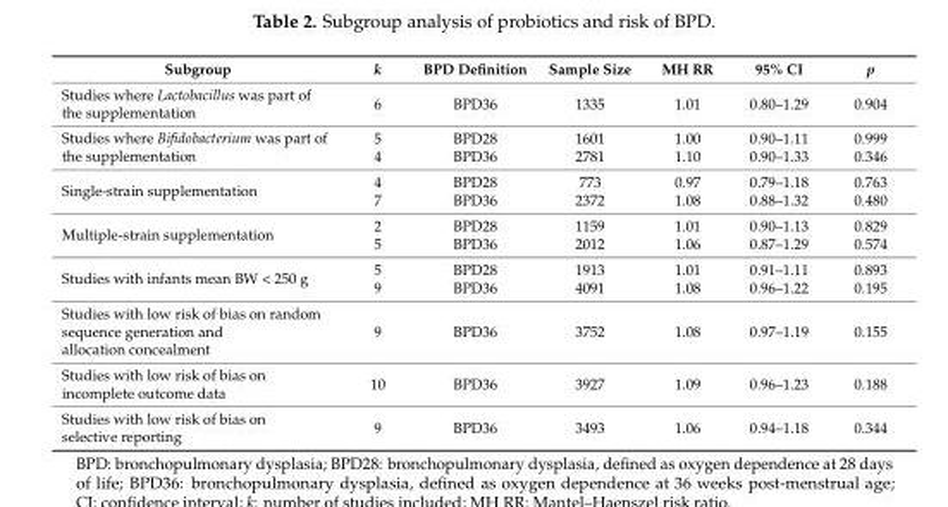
<table><thead><tr><td>Subgroup</td><td>k</td><td>BPD Definition</td><td>Sample Size</td><td>MH RR</td><td>95% CI</td><td>p</td></tr></thead><tbody><tr><td>Studies where Lactobacillus was part of the supplementation</td><td>6</td><td>BPD36</td><td>1335</td><td>1.01</td><td>0.80–1.29</td><td>0.904</td></tr><tr><td rowspan="2">Studies where Bifidobacterium was part of the supplementation</td><td>5</td><td>BPD28</td><td>1601</td><td>1.00</td><td>0.90–1.11</td><td>0.999</td></tr><tr><td>4</td><td>BPD36</td><td>2781</td><td>1.10</td><td>0.90–1.33</td><td>0.346</td></tr><tr><td rowspan="2">Single-strain supplementation</td><td>4</td><td>BPD28</td><td>773</td><td>0.97</td><td>0.79–1.18</td><td>0.763</td></tr><tr><td>7</td><td>BPD36</td><td>2372</td><td>1.08</td><td>0.88–1.32</td><td>0.480</td></tr><tr><td rowspan="2">Multiple-strain supplementation</td><td>2</td><td>BPD28</td><td>1159</td><td>1.01</td><td>0.90–1.13</td><td>0.829</td></tr><tr><td>5</td><td>BPD36</td><td>2012</td><td>1.06</td><td>0.87–1.29</td><td>0.574</td></tr><tr><td rowspan="2">Studies with infants mean BW &lt; 250 g</td><td>5</td><td>BPD28</td><td>1913</td><td>1.01</td><td>0.91–1.11</td><td>0.893</td></tr><tr><td>9</td><td>BPD36</td><td>4091</td><td>1.08</td><td>0.96–1.22</td><td>0.195</td></tr><tr><td>Studies with low risk of bias on random sequence generation and allocation concealment</td><td>9</td><td>BPD36</td><td>3752</td><td>1.08</td><td>0.97–1.19</td><td>0.155</td></tr><tr><td>Studies with low risk of bias on incomplete outcome data</td><td>10</td><td>BPD36</td><td>3927</td><td>1.09</td><td>0.96–1.23</td><td>0.188</td></tr><tr><td>Studies with low risk of bias on selective reporting</td><td>9</td><td>BPD36</td><td>3493</td><td>1.06</td><td>0.94–1.18</td><td>0.344</td></tr></tbody></table>